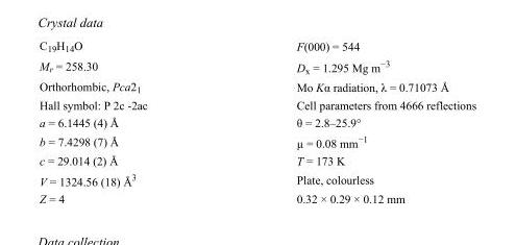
<table><tbody><tr><td>C<sub>19</sub>H<sub>14</sub>O</td><td>F(000) = 544</td></tr><tr><td>M<sub>r</sub> = 258.30</td><td>D<sub>x</sub> = 1.295 Mg m<sup>−3</sup></td></tr><tr><td>Orthorhombic, Pca2<sub>1</sub></td><td>Mo Kα radiation, λ = 0.71073 Å</td></tr><tr><td>Hall symbol: P 2c -2ac</td><td>Cell parameters from 4666 reflections</td></tr><tr><td>a = 6.1445 (4) Å</td><td>θ = 2.8–25.9°</td></tr><tr><td>b = 7.4298 (7) Å</td><td>µ = 0.08 mm<sup>−1</sup></td></tr><tr><td>c = 29.014 (2) Å</td><td>T = 173 K</td></tr><tr><td>V = 1324.56 (18) Å<sup>3</sup></td><td>Plate, colourless</td></tr><tr><td>Z = 4</td><td>0.32 × 0.29 × 0.12 mm</td></tr></tbody></table>